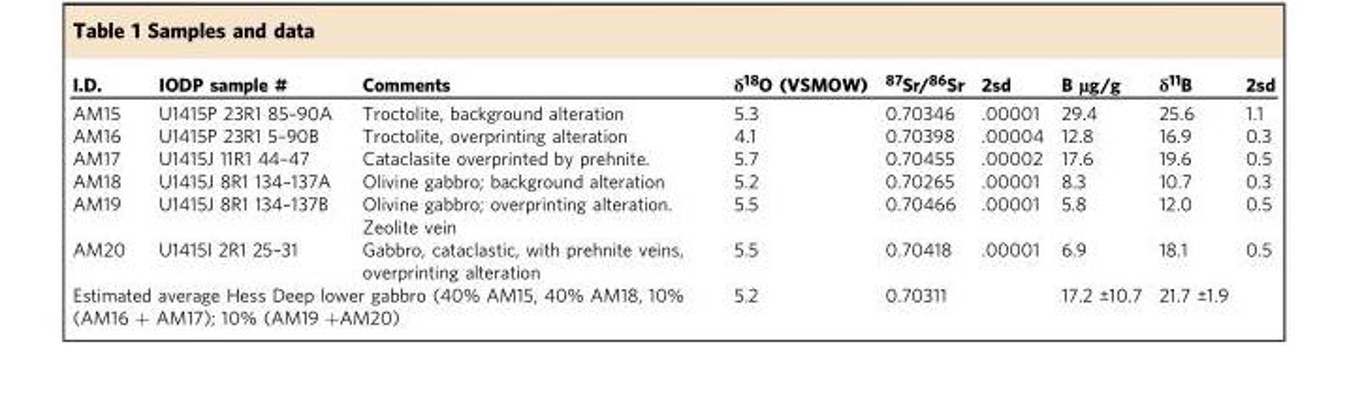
<table><thead><tr><td>I.D.</td><td>IODP sample #</td><td>Comments</td><td>δ<sup>18</sup>O (VSMOW)</td><td><sup>87</sup>Sr/<sup>86</sup>Sr</td><td>2sd</td><td>B µg/g</td><td>δ<sup>11</sup>B</td><td>2sd</td></tr></thead><tbody><tr><td>AM15</td><td>U1415P 23R1 85–90A</td><td>Troctolite, background alteration</td><td>5.3</td><td>0.70346</td><td>.00001</td><td>29.4</td><td>25.6</td><td>1.1</td></tr><tr><td>AM16</td><td>U1415P 23R1 5–90B</td><td>Troctolite, overprinting alteration</td><td>4.1</td><td>0.70398</td><td>.00004</td><td>12.8</td><td>16.9</td><td>0.3</td></tr><tr><td>AM17</td><td>U1415J 11R1 44–47</td><td>Cataclasite overprinted by prehnite.</td><td>5.7</td><td>0.70455</td><td>.00002</td><td>17.6</td><td>19.6</td><td>0.5</td></tr><tr><td>AM18</td><td>U1415J 8R1 134–137A</td><td>Olivine gabbro; background alteration</td><td>5.2</td><td>0.70265</td><td>.00001</td><td>8.3</td><td>10.7</td><td>0.3</td></tr><tr><td>AM19</td><td>U1415J 8R1 134–137B</td><td>Olivine gabbro; overprinting alteration. Zeolite vein</td><td>5.5</td><td>0.70466</td><td>.00001</td><td>5.8</td><td>12.0</td><td>0.5</td></tr><tr><td>AM20</td><td>U1415I 2R1 25–31</td><td>Gabbro, cataclastic, with prehnite veins, overprinting alteration</td><td>5.5</td><td>0.70418</td><td>.00001</td><td>6.9</td><td>18.1</td><td>0.5</td></tr><tr><td colspan="3">Estimated average Hess Deep lower gabbro (40% AM15, 40% AM18, 10% (AM16 + AM17); 10% (AM19 +AM20)</td><td>5.2</td><td>0.70311</td><td></td><td>17.2 ±10.7</td><td>21.7 ±1.9</td><td></td></tr></tbody></table>